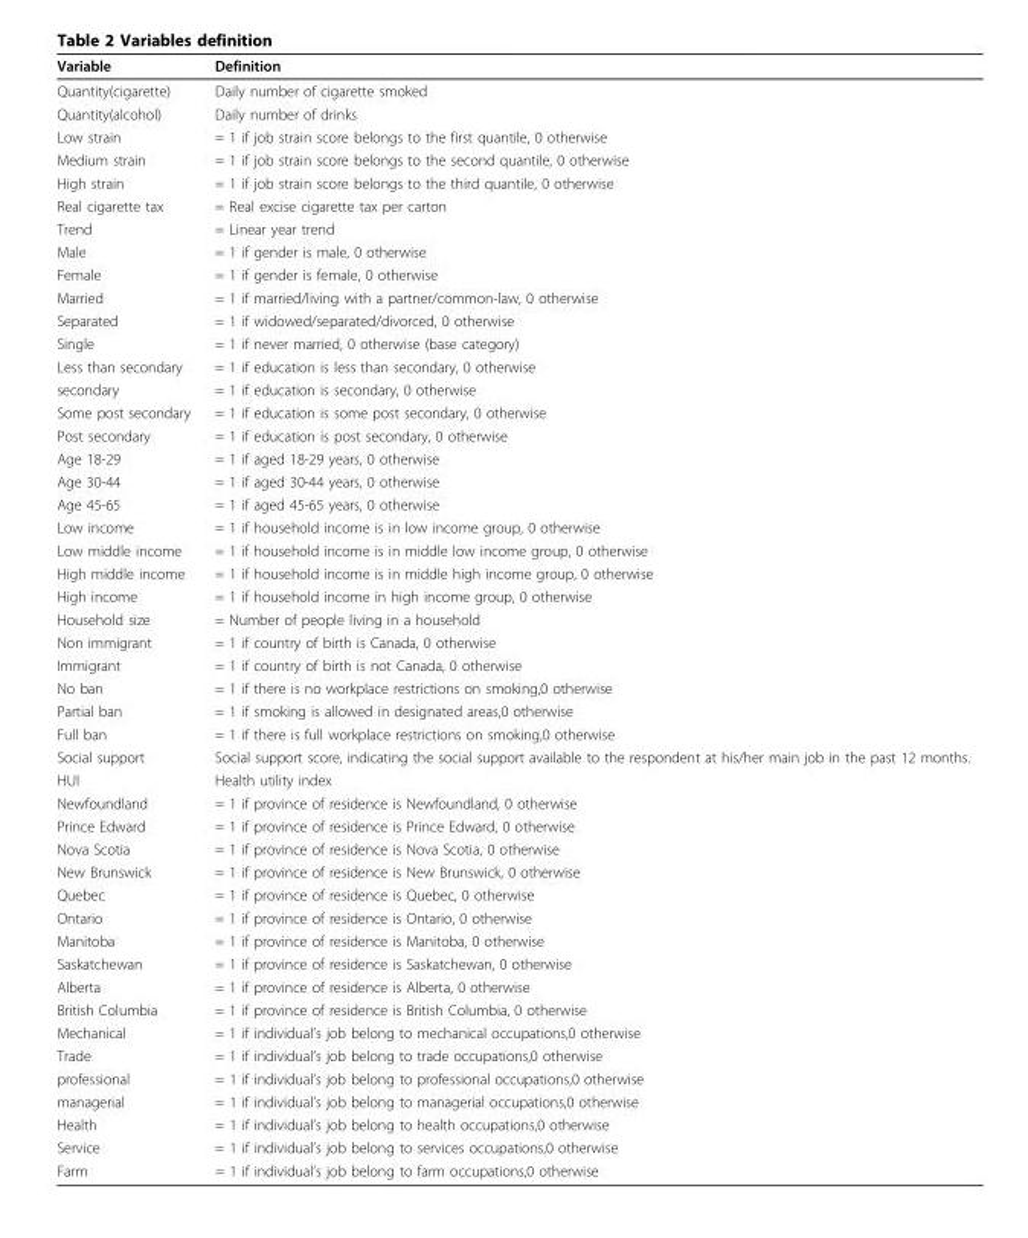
<table><thead><tr><td>Variable</td><td>Definition</td></tr></thead><tbody><tr><td>Quantity(cigarette)</td><td>Daily number of cigarette smoked</td></tr><tr><td>Quantity(alcohol)</td><td>Daily number of drinks</td></tr><tr><td>Low strain</td><td>= 1 if job strain score belongs to the first quantile, 0 otherwise</td></tr><tr><td>Medium strain</td><td>= 1 if job strain score belongs to the second quantile, 0 otherwise</td></tr><tr><td>High strain</td><td>= 1 if job strain score belongs to the third quantile, 0 otherwise</td></tr><tr><td>Real cigarette tax</td><td>= Real excise cigarette tax per carton</td></tr><tr><td>Trend</td><td>= Linear year trend</td></tr><tr><td>Male</td><td>= 1 if gender is male, 0 otherwise</td></tr><tr><td>Female</td><td>= 1 if gender is female, 0 otherwise</td></tr><tr><td>Married</td><td>= 1 if married/living with a partner/common-law, 0 otherwise</td></tr><tr><td>Separated</td><td>= 1 if widowed/separated/divorced, 0 otherwise</td></tr><tr><td>Single</td><td>= 1 if never married, 0 otherwise (base category)</td></tr><tr><td>Less than secondary</td><td>= 1 if education is less than secondary, 0 otherwise</td></tr><tr><td>secondary</td><td>= 1 if education is secondary, 0 otherwise</td></tr><tr><td>Some post secondary</td><td>= 1 if education is some post secondary, 0 otherwise</td></tr><tr><td>Post secondary</td><td>= 1 if education is post secondary, 0 otherwise</td></tr><tr><td>Age 18-29</td><td>= 1 if aged 18-29 years, 0 otherwise</td></tr><tr><td>Age 30-44</td><td>= 1 if aged 30-44 years, 0 otherwise</td></tr><tr><td>Age 45-65</td><td>= 1 if aged 45-65 years, 0 otherwise</td></tr><tr><td>Low income</td><td>= 1 if household income is in low income group, 0 otherwise</td></tr><tr><td>Low middle income</td><td>= 1 if household income is in middle low income group, 0 otherwise</td></tr><tr><td>High middle income</td><td>= 1 if household income is in middle high income group, 0 otherwise</td></tr><tr><td>High income</td><td>= 1 if household income in high income group, 0 otherwise</td></tr><tr><td>Household size</td><td>= Number of people living in a household</td></tr><tr><td>Non immigrant</td><td>= 1 if country of birth is Canada, 0 otherwise</td></tr><tr><td>Immigrant</td><td>= 1 if country of birth is not Canada, 0 otherwise</td></tr><tr><td>No ban</td><td>= 1 if there is no workplace restrictions on smoking,0 otherwise</td></tr><tr><td>Partial ban</td><td>= 1 if smoking is allowed in designated areas,0 otherwise</td></tr><tr><td>Full ban</td><td>= 1 if there is full workplace restrictions on smoking,0 otherwise</td></tr><tr><td>Social support</td><td>Social support score, indicating the social support available to the respondent at his/her main job in the past 12 months.</td></tr><tr><td>HUI</td><td>Health utility index</td></tr><tr><td>Newfoundland</td><td>= 1 if province of residence is Newfoundland, 0 otherwise</td></tr><tr><td>Prince Edward</td><td>= 1 if province of residence is Prince Edward, 0 otherwise</td></tr><tr><td>Nova Scotia</td><td>= 1 if province of residence is Nova Scotia, 0 otherwise</td></tr><tr><td>New Brunswick</td><td>= 1 if province of residence is New Brunswick, 0 otherwise</td></tr><tr><td>Quebec</td><td>= 1 if province of residence is Quebec, 0 otherwise</td></tr><tr><td>Ontario</td><td>= 1 if province of residence is Ontario, 0 otherwise</td></tr><tr><td>Manitoba</td><td>= 1 if province of residence is Manitoba, 0 otherwise</td></tr><tr><td>Saskatchewan</td><td>= 1 if province of residence is Saskatchewan, 0 otherwise</td></tr><tr><td>Alberta</td><td>= 1 if province of residence is Alberta, 0 otherwise</td></tr><tr><td>British Columbia</td><td>= 1 if province of residence is British Columbia, 0 otherwise</td></tr><tr><td>Mechanical</td><td>= 1 if individual’s job belong to mechanical occupations,0 otherwise</td></tr><tr><td>Trade</td><td>= 1 if individual’s job belong to trade occupations,0 otherwise</td></tr><tr><td>professional</td><td>= 1 if individual’s job belong to professional occupations,0 otherwise</td></tr><tr><td>managerial</td><td>= 1 if individual’s job belong to managerial occupations,0 otherwise</td></tr><tr><td>Health</td><td>= 1 if individual’s job belong to health occupations,0 otherwise</td></tr><tr><td>Service</td><td>= 1 if individual’s job belong to services occupations,0 otherwise</td></tr><tr><td>Farm</td><td>= 1 if individual’s job belong to farm occupations,0 otherwise</td></tr></tbody></table>